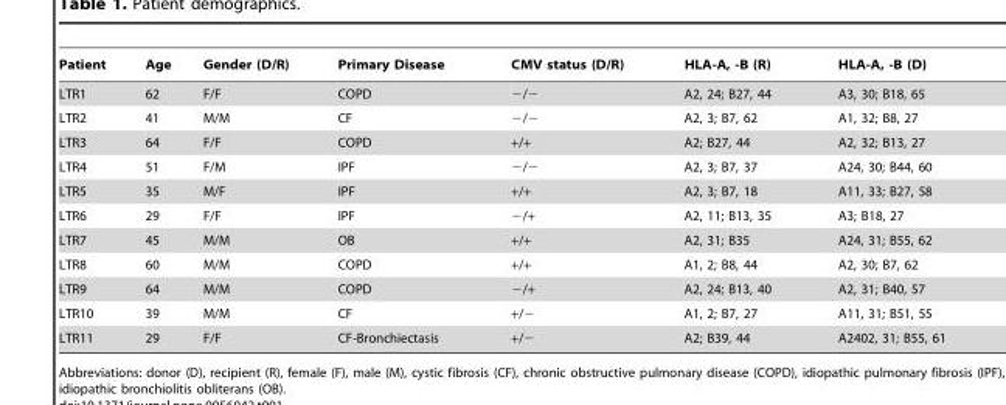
<table><thead><tr><td>Patient</td><td>Age</td><td>Gender (D/R)</td><td>Primary Disease</td><td>CMV status (D/R)</td><td>HLA-A, -B (R)</td><td>HLA-A, -B (D)</td></tr></thead><tbody><tr><td>LTR1</td><td>62</td><td>F/F</td><td>COPD</td><td>−/−</td><td>A2, 24; B27, 44</td><td>A3, 30; B18, 65</td></tr><tr><td>LTR2</td><td>41</td><td>M/M</td><td>CF</td><td>−/−</td><td>A2, 3; B7, 62</td><td>A1, 32; B8, 27</td></tr><tr><td>LTR3</td><td>64</td><td>F/F</td><td>COPD</td><td>+/+</td><td>A2; B27, 44</td><td>A2, 32; B13, 27</td></tr><tr><td>LTR4</td><td>51</td><td>F/M</td><td>IPF</td><td>−/−</td><td>A2, 3; B7, 37</td><td>A24, 30; B44, 60</td></tr><tr><td>LTR5</td><td>35</td><td>M/F</td><td>IPF</td><td>+/+</td><td>A2, 3; B7, 18</td><td>A11, 33; B27, 58</td></tr><tr><td>LTR6</td><td>29</td><td>F/F</td><td>IPF</td><td>−/+</td><td>A2, 11; B13, 35</td><td>A3; B18, 27</td></tr><tr><td>LTR7</td><td>45</td><td>M/M</td><td>OB</td><td>+/+</td><td>A2, 31; B35</td><td>A24, 31; B55, 62</td></tr><tr><td>LTR8</td><td>60</td><td>M/M</td><td>COPD</td><td>+/+</td><td>A1, 2; B8, 44</td><td>A2, 30; B7, 62</td></tr><tr><td>LTR9</td><td>64</td><td>M/M</td><td>COPD</td><td>−/+</td><td>A2, 24; B13, 40</td><td>A2, 31; B40, 57</td></tr><tr><td>LTR10</td><td>39</td><td>M/M</td><td>CF</td><td>+/−</td><td>A1, 2; B7, 27</td><td>A11, 31; B51, 55</td></tr><tr><td>LTR11</td><td>29</td><td>F/F</td><td>CF-Bronchiectasis</td><td>+/−</td><td>A2; B39, 44</td><td>A2402, 31; B55, 61</td></tr></tbody></table>